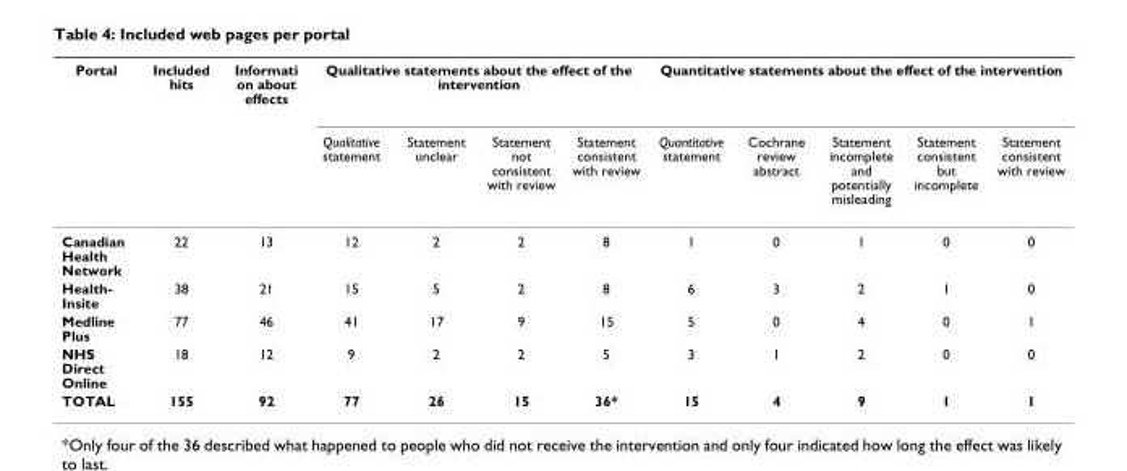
<table><thead><tr><td rowspan="2">Portal</td><td rowspan="2">Included hits</td><td rowspan="2">Informati on about effects</td><td colspan="4">Qualitative statements about the effect of the intervention</td><td colspan="5">Quantitative statements about the effect of the intervention</td></tr><tr><td>Qualitative statement</td><td>Statement unclear</td><td>Statement not consistent with review</td><td>Statement consistent with review</td><td>Quantitative statement</td><td>Cochrane review abstract</td><td>Statement incomplete and potentially misleading</td><td>Statement consistent but incomplete</td><td>Statement consistent with review</td></tr></thead><tbody><tr><td>Canadian Health Network</td><td>22</td><td>13</td><td>12</td><td>2</td><td>2</td><td>8</td><td>1</td><td>0</td><td>1</td><td>0</td><td>0</td></tr><tr><td>Health- Insite</td><td>38</td><td>21</td><td>15</td><td>5</td><td>2</td><td>8</td><td>6</td><td>3</td><td>2</td><td>1</td><td>0</td></tr><tr><td>Medline Plus</td><td>77</td><td>46</td><td>41</td><td>17</td><td>9</td><td>15</td><td>5</td><td>0</td><td>4</td><td>0</td><td>1</td></tr><tr><td>NHS Direct Online</td><td>18</td><td>12</td><td>9</td><td>2</td><td>2</td><td>5</td><td>3</td><td>1</td><td>2</td><td>0</td><td>0</td></tr><tr><td>TOTAL</td><td>155</td><td>92</td><td>77</td><td>26</td><td>15</td><td>36*</td><td>15</td><td>4</td><td>9</td><td>1</td><td>1</td></tr></tbody></table>